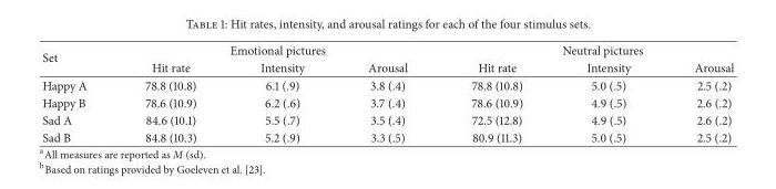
<table><thead><tr><td rowspan="2">Set</td><td colspan="3">Emotional pictures</td><td colspan="3">Neutral pictures</td></tr><tr><td>Hit rate</td><td>Intensity</td><td>Arousal</td><td>Hit rate</td><td>Intensity</td><td>Arousal</td></tr></thead><tbody><tr><td>Happy A</td><td>78.8 (10.8)</td><td>6.1 (.9)</td><td>3.8 (.4)</td><td>78.8 (10.8)</td><td>5.0 (.5)</td><td>2.5 (.2)</td></tr><tr><td>Happy B</td><td>78.6 (10.9)</td><td>6.2 (.6)</td><td>3.7 (.4)</td><td>78.6 (10.9)</td><td>4.9 (.5)</td><td>2.6 (.2)</td></tr><tr><td>Sad A</td><td>84.6 (10.1)</td><td>5.5 (.7)</td><td>3.5 (.4)</td><td>72.5 (12.8)</td><td>4.9 (.5)</td><td>2.6 (.2)</td></tr><tr><td>Sad B</td><td>84.8 (10.3)</td><td>5.2 (.9)</td><td>3.3 (.5)</td><td>80.9 (11.3)</td><td>5.0 (.5)</td><td>2.5 (.2)</td></tr></tbody></table>